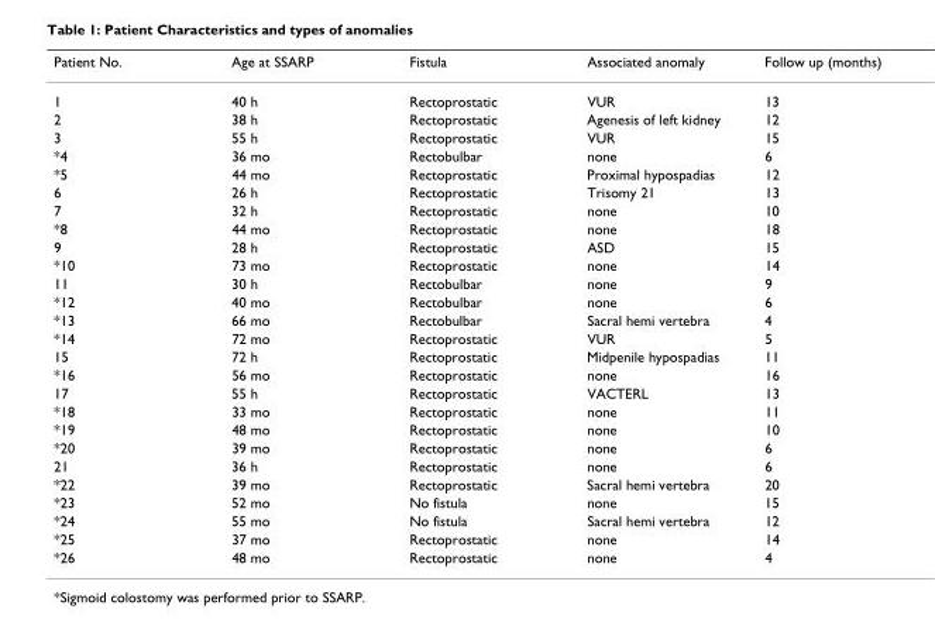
<table><thead><tr><td>Patient No.</td><td>Age at SSARP</td><td>Fistula</td><td>Associated anomaly</td><td>Follow up (months)</td></tr></thead><tbody><tr><td>1</td><td>40 h</td><td>Rectoprostatic</td><td>VUR</td><td>13</td></tr><tr><td>2</td><td>38 h</td><td>Rectoprostatic</td><td>Agenesis of left kidney</td><td>12</td></tr><tr><td>3</td><td>55 h</td><td>Rectoprostatic</td><td>VUR</td><td>15</td></tr><tr><td>*4</td><td>36 mo</td><td>Rectobulbar</td><td>none</td><td>6</td></tr><tr><td>*5</td><td>44 mo</td><td>Rectoprostatic</td><td>Proximal hypospadias</td><td>12</td></tr><tr><td>6</td><td>26 h</td><td>Rectoprostatic</td><td>Trisomy 21</td><td>13</td></tr><tr><td>7</td><td>32 h</td><td>Rectoprostatic</td><td>none</td><td>10</td></tr><tr><td>*8</td><td>44 mo</td><td>Rectoprostatic</td><td>none</td><td>18</td></tr><tr><td>9</td><td>28 h</td><td>Rectoprostatic</td><td>ASD</td><td>15</td></tr><tr><td>*10</td><td>73 mo</td><td>Rectoprostatic</td><td>none</td><td>14</td></tr><tr><td>11</td><td>30 h</td><td>Rectobulbar</td><td>none</td><td>9</td></tr><tr><td>*12</td><td>40 mo</td><td>Rectobulbar</td><td>none</td><td>6</td></tr><tr><td>*13</td><td>66 mo</td><td>Rectobulbar</td><td>Sacral hemi vertebra</td><td>4</td></tr><tr><td>*14</td><td>72 mo</td><td>Rectoprostatic</td><td>VUR</td><td>5</td></tr><tr><td>15</td><td>72 h</td><td>Rectoprostatic</td><td>Midpenile hypospadias</td><td>11</td></tr><tr><td>*16</td><td>56 mo</td><td>Rectoprostatic</td><td>none</td><td>16</td></tr><tr><td>17</td><td>55 h</td><td>Rectoprostatic</td><td>VACTERL</td><td>13</td></tr><tr><td>*18</td><td>33 mo</td><td>Rectoprostatic</td><td>none</td><td>11</td></tr><tr><td>*19</td><td>48 mo</td><td>Rectoprostatic</td><td>none</td><td>10</td></tr><tr><td>*20</td><td>39 mo</td><td>Rectoprostatic</td><td>none</td><td>6</td></tr><tr><td>21</td><td>36 h</td><td>Rectoprostatic</td><td>none</td><td>6</td></tr><tr><td>*22</td><td>39 mo</td><td>Rectoprostatic</td><td>Sacral hemi vertebra</td><td>20</td></tr><tr><td>*23</td><td>52 mo</td><td>No fistula</td><td>none</td><td>15</td></tr><tr><td>*24</td><td>55 mo</td><td>No fistula</td><td>Sacral hemi vertebra</td><td>12</td></tr><tr><td>*25</td><td>37 mo</td><td>Rectoprostatic</td><td>none</td><td>14</td></tr><tr><td>*26</td><td>48 mo</td><td>Rectoprostatic</td><td>none</td><td>4</td></tr></tbody></table>